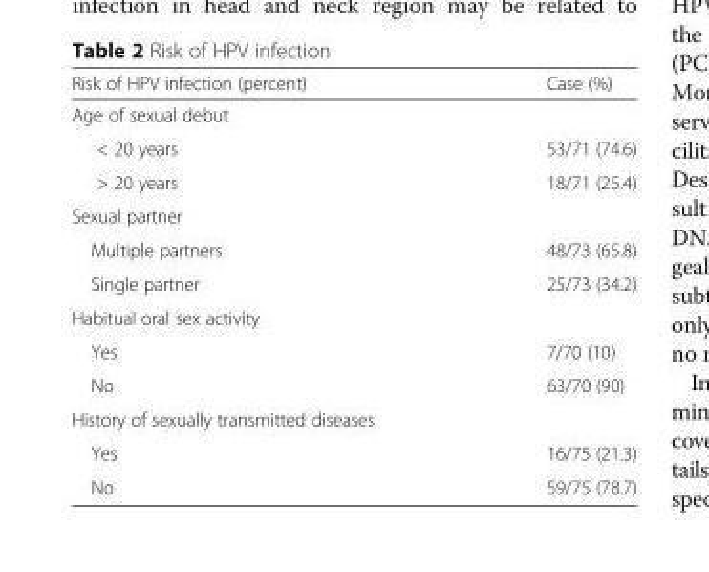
<table><thead><tr><td>Risk of HPV infection (percent)</td><td>Case (%)</td></tr></thead><tbody><tr><td colspan="2">Age of sexual debut</td></tr><tr><td>&lt; 20 years</td><td>53/71 (74.6)</td></tr><tr><td>&gt; 20 years</td><td>18/71 (25.4)</td></tr><tr><td colspan="2">Sexual partner</td></tr><tr><td>Multiple partners</td><td>48/73 (65.8)</td></tr><tr><td>Single partner</td><td>25/73 (34.2)</td></tr><tr><td colspan="2">Habitual oral sex activity</td></tr><tr><td>Yes</td><td>7/70 (10)</td></tr><tr><td>No</td><td>63/70 (90)</td></tr><tr><td colspan="2">History of sexually transmitted diseases</td></tr><tr><td>Yes</td><td>16/75 (21.3)</td></tr><tr><td>No</td><td>59/75 (78.7)</td></tr></tbody></table>